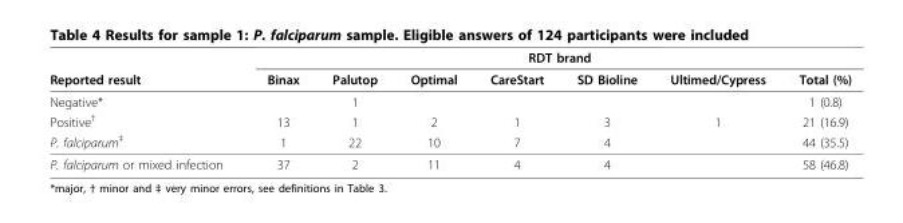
<table><thead><tr><td rowspan="2">Reported result</td><td colspan="7">RDT brand</td></tr><tr><td>Binax</td><td>Palutop</td><td>Optimal</td><td>CareStart</td><td>SD Bioline</td><td>Ultimed/Cypress</td><td>Total (%)</td></tr></thead><tbody><tr><td>Negative*</td><td></td><td>1</td><td></td><td></td><td></td><td></td><td>1 (0.8)</td></tr><tr><td>Positive<sup>†</sup></td><td>13</td><td>1</td><td>2</td><td>1</td><td>3</td><td>1</td><td>21 (16.9)</td></tr><tr><td>P. falciparum<sup>‡</sup></td><td>1</td><td>22</td><td>10</td><td>7</td><td>4</td><td></td><td>44 (35.5)</td></tr><tr><td>P. falciparum or mixed infection</td><td>37</td><td>2</td><td>11</td><td>4</td><td>4</td><td></td><td>58 (46.8)</td></tr></tbody></table>